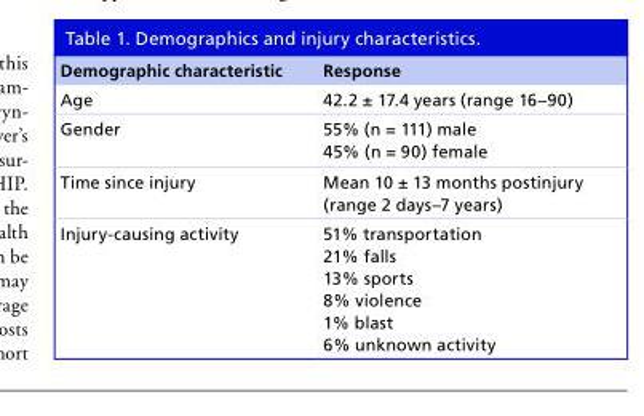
<table><thead><tr><td>Demographic characteristic</td><td>Response</td></tr></thead><tbody><tr><td>Age</td><td>42.2 ± 17.4 years (range 16–90)</td></tr><tr><td>Gender</td><td>55% (n = 111) male 45% (n = 90) female</td></tr><tr><td>Time since injury</td><td>Mean 10 ± 13 months postinjury (range 2 days–7 years)</td></tr><tr><td>Injury-causing activity</td><td>51% transportation 21% falls 13% sports 8% violence 1% blast 6% unknown activity</td></tr></tbody></table>